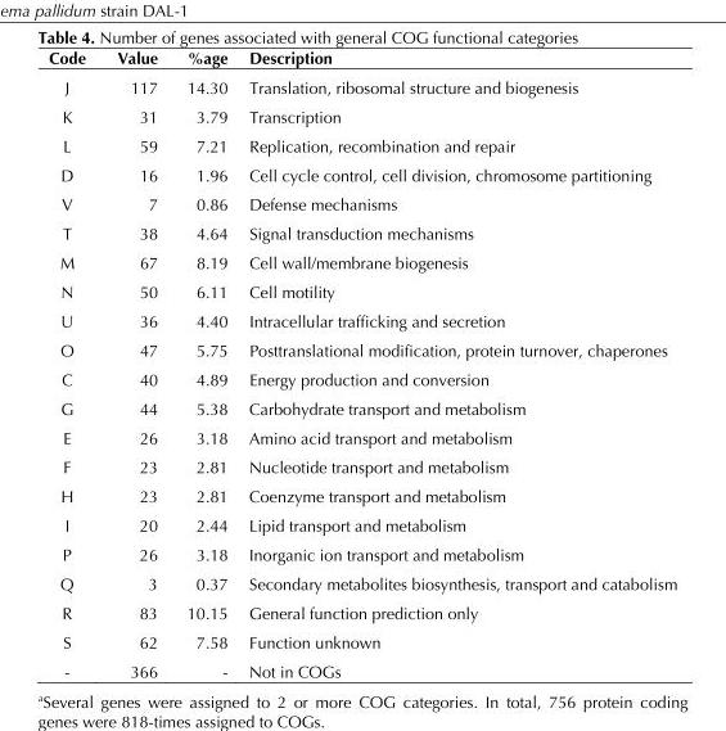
<table><thead><tr><td>Code</td><td>Value</td><td>%age</td><td>Description</td></tr></thead><tbody><tr><td>J</td><td>117</td><td>14.30</td><td>Translation, ribosomal structure and biogenesis</td></tr><tr><td>K</td><td>31</td><td>3.79</td><td>Transcription</td></tr><tr><td>L</td><td>59</td><td>7.21</td><td>Replication, recombination and repair</td></tr><tr><td>D</td><td>16</td><td>1.96</td><td>Cell cycle control, cell division, chromosome partitioning</td></tr><tr><td>V</td><td>7</td><td>0.86</td><td>Defense mechanisms</td></tr><tr><td>T</td><td>38</td><td>4.64</td><td>Signal transduction mechanisms</td></tr><tr><td>M</td><td>67</td><td>8.19</td><td>Cell wall/membrane biogenesis</td></tr><tr><td>N</td><td>50</td><td>6.11</td><td>Cell motility</td></tr><tr><td>U</td><td>36</td><td>4.40</td><td>Intracellular trafficking and secretion</td></tr><tr><td>O</td><td>47</td><td>5.75</td><td>Posttranslational modification, protein turnover, chaperones</td></tr><tr><td>C</td><td>40</td><td>4.89</td><td>Energy production and conversion</td></tr><tr><td>G</td><td>44</td><td>5.38</td><td>Carbohydrate transport and metabolism</td></tr><tr><td>E</td><td>26</td><td>3.18</td><td>Amino acid transport and metabolism</td></tr><tr><td>F</td><td>23</td><td>2.81</td><td>Nucleotide transport and metabolism</td></tr><tr><td>H</td><td>23</td><td>2.81</td><td>Coenzyme transport and metabolism</td></tr><tr><td>I</td><td>20</td><td>2.44</td><td>Lipid transport and metabolism</td></tr><tr><td>P</td><td>26</td><td>3.18</td><td>Inorganic ion transport and metabolism</td></tr><tr><td>Q</td><td>3</td><td>0.37</td><td>Secondary metabolites biosynthesis, transport and catabolism</td></tr><tr><td>R</td><td>83</td><td>10.15</td><td>General function prediction only</td></tr><tr><td>S</td><td>62</td><td>7.58</td><td>Function unknown</td></tr><tr><td>-</td><td>366</td><td>-</td><td>Not in COGs</td></tr></tbody></table>